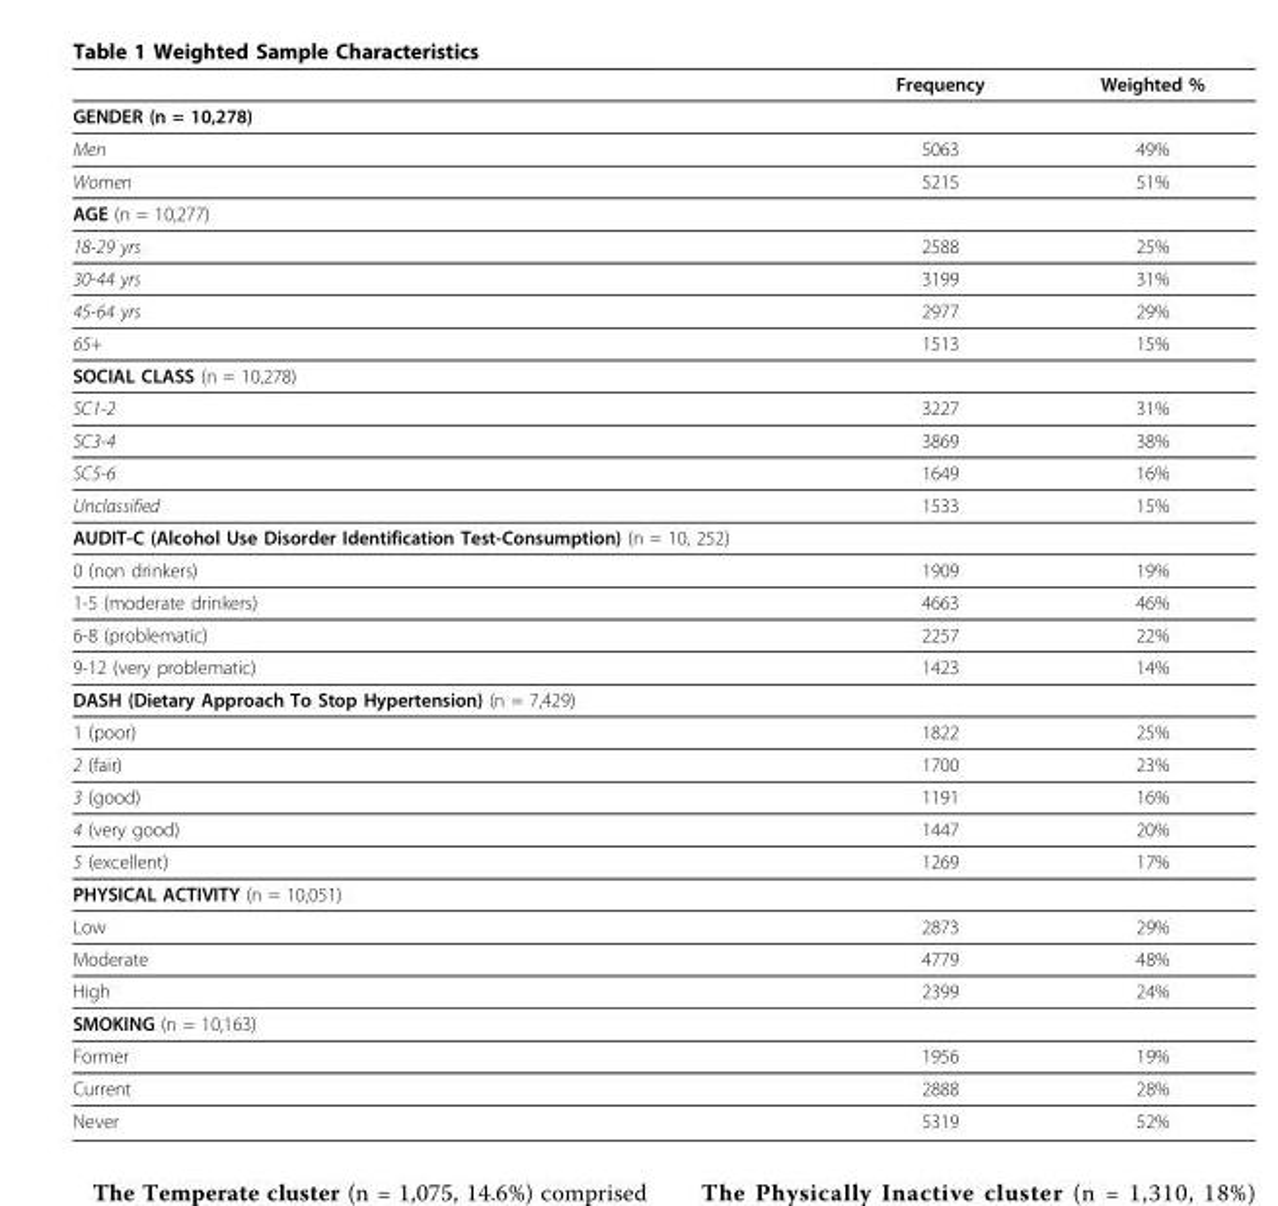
<table><thead><tr><td></td><td>Frequency</td><td>Weighted %</td></tr></thead><tbody><tr><td colspan="3">GENDER (n = 10,278)</td></tr><tr><td>Men</td><td>5063</td><td>49%</td></tr><tr><td>Women</td><td>5215</td><td>51%</td></tr><tr><td colspan="3">AGE (n = 10,277)</td></tr><tr><td>18-29 yrs</td><td>2588</td><td>25%</td></tr><tr><td>30-44 yrs</td><td>3199</td><td>31%</td></tr><tr><td>45-64 yrs</td><td>2977</td><td>29%</td></tr><tr><td>65+</td><td>1513</td><td>15%</td></tr><tr><td colspan="3">SOCIAL CLASS (n = 10,278)</td></tr><tr><td>SC1-2</td><td>3227</td><td>31%</td></tr><tr><td>SC3-4</td><td>3869</td><td>38%</td></tr><tr><td>SC5-6</td><td>1649</td><td>16%</td></tr><tr><td>Unclassified</td><td>1533</td><td>15%</td></tr><tr><td colspan="3">AUDIT-C (Alcohol Use Disorder Identification Test-Consumption) (n = 10, 252)</td></tr><tr><td>0 (non drinkers)</td><td>1909</td><td>19%</td></tr><tr><td>1-5 (moderate drinkers)</td><td>4663</td><td>46%</td></tr><tr><td>6-8 (problematic)</td><td>2257</td><td>22%</td></tr><tr><td>9-12 (very problematic)</td><td>1423</td><td>14%</td></tr><tr><td colspan="3">DASH (Dietary Approach To Stop Hypertension) (n = 7,429)</td></tr><tr><td>1 (poor)</td><td>1822</td><td>25%</td></tr><tr><td>2 (fair)</td><td>1700</td><td>23%</td></tr><tr><td>3 (good)</td><td>1191</td><td>16%</td></tr><tr><td>4 (very good)</td><td>1447</td><td>20%</td></tr><tr><td>5 (excellent)</td><td>1269</td><td>17%</td></tr><tr><td colspan="3">PHYSICAL ACTIVITY (n = 10,051)</td></tr><tr><td>Low</td><td>2873</td><td>29%</td></tr><tr><td>Moderate</td><td>4779</td><td>48%</td></tr><tr><td>High</td><td>2399</td><td>24%</td></tr><tr><td colspan="3">SMOKING (n = 10,163)</td></tr><tr><td>Former</td><td>1956</td><td>19%</td></tr><tr><td>Current</td><td>2888</td><td>28%</td></tr><tr><td>Never</td><td>5319</td><td>52%</td></tr></tbody></table>